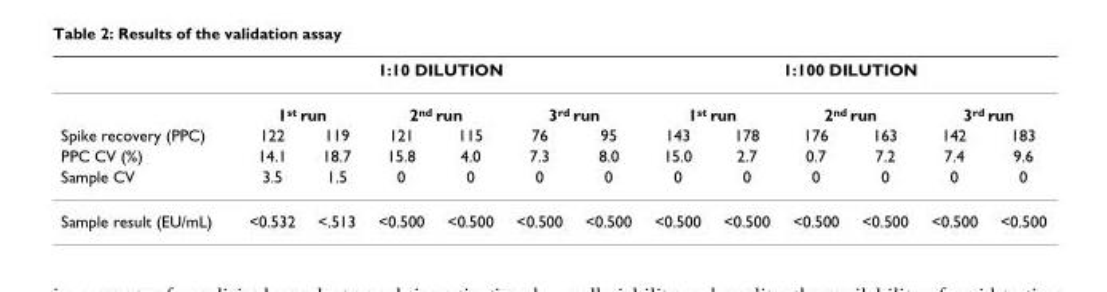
<table><thead><tr><td rowspan="3">Spike recovery (PPC)</td><td colspan="6">1:10 DILUTION</td><td colspan="6">1:100 DILUTION</td></tr><tr><td colspan="2">1<sup>st</sup> run</td><td colspan="2">2<sup>nd</sup> run</td><td colspan="2">3<sup>rd</sup> run</td><td colspan="2">1<sup>st</sup> run</td><td colspan="2">2<sup>nd</sup> run</td><td colspan="2">3<sup>rd</sup> run</td></tr><tr><td>122</td><td>119</td><td>121</td><td>115</td><td>76</td><td>95</td><td>143</td><td>178</td><td>176</td><td>163</td><td>142</td><td>183</td></tr></thead><tbody><tr><td>PPC CV (%)</td><td>14.1</td><td>18.7</td><td>15.8</td><td>4.0</td><td>7.3</td><td>8.0</td><td>15.0</td><td>2.7</td><td>0.7</td><td>7.2</td><td>7.4</td><td>9.6</td></tr><tr><td>Sample CV</td><td>3.5</td><td>1.5</td><td>0</td><td>0</td><td>0</td><td>0</td><td>0</td><td>0</td><td>0</td><td>0</td><td>0</td><td>0</td></tr><tr><td>Sample result (EU/mL)</td><td>&lt;0.532</td><td>&lt;.513</td><td>&lt;0.500</td><td>&lt;0.500</td><td>&lt;0.500</td><td>&lt;0.500</td><td>&lt;0.500</td><td>&lt;0.500</td><td>&lt;0.500</td><td>&lt;0.500</td><td>&lt;0.500</td><td>&lt;0.500</td></tr></tbody></table>